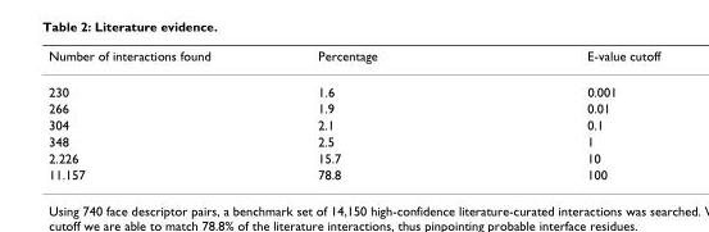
<table><thead><tr><td>Number of interactions found</td><td>Percentage</td><td>E-value cutoff</td></tr></thead><tbody><tr><td>230</td><td>1.6</td><td>0.001</td></tr><tr><td>266</td><td>1.9</td><td>0.01</td></tr><tr><td>304</td><td>2.1</td><td>0.1</td></tr><tr><td>348</td><td>2.5</td><td>1</td></tr><tr><td>2.226</td><td>15.7</td><td>10</td></tr><tr><td>11.157</td><td>78.8</td><td>100</td></tr></tbody></table>